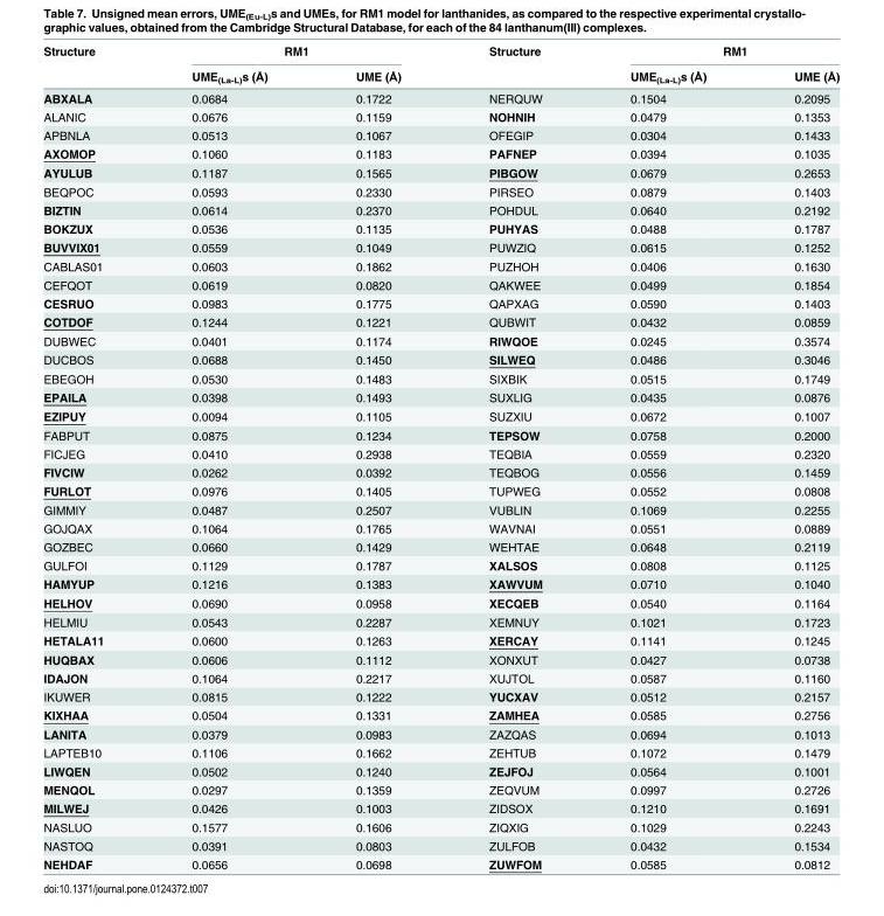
<table><thead><tr><td rowspan="2">Structure</td><td colspan="2">RM1</td><td rowspan="2">Structure</td><td colspan="2">RM1</td></tr><tr><td>UME<sub>(La-L)</sub>s (Å)</td><td>UME (Å)</td><td>UME<sub>(La-L)</sub>s (Å)</td><td>UME (Å)</td></tr></thead><tbody><tr><td>ABXALA</td><td>0.0684</td><td>0.1722</td><td>NERQUW</td><td>0.1504</td><td>0.2095</td></tr><tr><td>ALANIC</td><td>0.0676</td><td>0.1159</td><td>NOHNIH</td><td>0.0479</td><td>0.1353</td></tr><tr><td>APBNLA</td><td>0.0513</td><td>0.1067</td><td>OFEGIP</td><td>0.0304</td><td>0.1433</td></tr><tr><td>AXOMOP</td><td>0.1060</td><td>0.1183</td><td>PAFNEP</td><td>0.0394</td><td>0.1035</td></tr><tr><td>AYULUB</td><td>0.1187</td><td>0.1565</td><td>PIBGOW</td><td>0.0679</td><td>0.2653</td></tr><tr><td>BEQPOC</td><td>0.0593</td><td>0.2330</td><td>PIRSEO</td><td>0.0879</td><td>0.1403</td></tr><tr><td>BIZTIN</td><td>0.0614</td><td>0.2370</td><td>POHDUL</td><td>0.0640</td><td>0.2192</td></tr><tr><td>BOKZUX</td><td>0.0536</td><td>0.1135</td><td>PUHYAS</td><td>0.0488</td><td>0.1787</td></tr><tr><td>BUVVIX01</td><td>0.0559</td><td>0.1049</td><td>PUWZIQ</td><td>0.0615</td><td>0.1252</td></tr><tr><td>CABLAS01</td><td>0.0603</td><td>0.1862</td><td>PUZHOH</td><td>0.0406</td><td>0.1630</td></tr><tr><td>CEFQOT</td><td>0.0619</td><td>0.0820</td><td>QAKWEE</td><td>0.0499</td><td>0.1854</td></tr><tr><td>CESRUO</td><td>0.0983</td><td>0.1775</td><td>QAPXAG</td><td>0.0590</td><td>0.1403</td></tr><tr><td>COTDOF</td><td>0.1244</td><td>0.1221</td><td>QUBWIT</td><td>0.0432</td><td>0.0859</td></tr><tr><td>DUBWEC</td><td>0.0401</td><td>0.1174</td><td>RIWQOE</td><td>0.0245</td><td>0.3574</td></tr><tr><td>DUCBOS</td><td>0.0688</td><td>0.1450</td><td>SILWEQ</td><td>0.0486</td><td>0.3046</td></tr><tr><td>EBEGOH</td><td>0.0530</td><td>0.1483</td><td>SIXBIK</td><td>0.0515</td><td>0.1749</td></tr><tr><td>EPAILA</td><td>0.0398</td><td>0.1493</td><td>SUXLIG</td><td>0.0435</td><td>0.0876</td></tr><tr><td>EZIPUY</td><td>0.0094</td><td>0.1105</td><td>SUZXIU</td><td>0.0672</td><td>0.1007</td></tr><tr><td>FABPUT</td><td>0.0875</td><td>0.1234</td><td>TEPSOW</td><td>0.0758</td><td>0.2000</td></tr><tr><td>FICJEG</td><td>0.0410</td><td>0.2938</td><td>TEQBIA</td><td>0.0559</td><td>0.2320</td></tr><tr><td>FIVCIW</td><td>0.0262</td><td>0.0392</td><td>TEQBOG</td><td>0.0556</td><td>0.1459</td></tr><tr><td>FURLOT</td><td>0.0976</td><td>0.1405</td><td>TUPWEG</td><td>0.0552</td><td>0.0808</td></tr><tr><td>GIMMIY</td><td>0.0487</td><td>0.2507</td><td>VUBLIN</td><td>0.1069</td><td>0.2255</td></tr><tr><td>GOJQAX</td><td>0.1064</td><td>0.1765</td><td>WAVNAI</td><td>0.0551</td><td>0.0889</td></tr><tr><td>GOZBEC</td><td>0.0660</td><td>0.1429</td><td>WEHTAE</td><td>0.0648</td><td>0.2119</td></tr><tr><td>GULFOI</td><td>0.1129</td><td>0.1787</td><td>XALSOS</td><td>0.0808</td><td>0.1125</td></tr><tr><td>HAMYUP</td><td>0.1216</td><td>0.1383</td><td>XAWVUM</td><td>0.0710</td><td>0.1040</td></tr><tr><td>HELHOV</td><td>0.0690</td><td>0.0958</td><td>XECQEB</td><td>0.0540</td><td>0.1164</td></tr><tr><td>HELMIU</td><td>0.0543</td><td>0.2287</td><td>XEMNUY</td><td>0.1021</td><td>0.1723</td></tr><tr><td>HETALA11</td><td>0.0600</td><td>0.1263</td><td>XERCAY</td><td>0.1141</td><td>0.1245</td></tr><tr><td>HUQBAX</td><td>0.0606</td><td>0.1112</td><td>XONXUT</td><td>0.0427</td><td>0.0738</td></tr><tr><td>IDAJON</td><td>0.1064</td><td>0.2217</td><td>XUJTOL</td><td>0.0587</td><td>0.1160</td></tr><tr><td>IKUWER</td><td>0.0815</td><td>0.1222</td><td>YUCXAV</td><td>0.0512</td><td>0.2157</td></tr><tr><td>KIXHAA</td><td>0.0504</td><td>0.1331</td><td>ZAMHEA</td><td>0.0585</td><td>0.2756</td></tr><tr><td>LANITA</td><td>0.0379</td><td>0.0983</td><td>ZAZQAS</td><td>0.0694</td><td>0.1013</td></tr><tr><td>LAPTEB10</td><td>0.1106</td><td>0.1662</td><td>ZEHTUB</td><td>0.1072</td><td>0.1479</td></tr><tr><td>LIWQEN</td><td>0.0502</td><td>0.1240</td><td>ZEJFOJ</td><td>0.0564</td><td>0.1001</td></tr><tr><td>MENQOL</td><td>0.0297</td><td>0.1359</td><td>ZEQVUM</td><td>0.0997</td><td>0.2726</td></tr><tr><td>MILWEJ</td><td>0.0426</td><td>0.1003</td><td>ZIDSOX</td><td>0.1210</td><td>0.1691</td></tr><tr><td>NASLUO</td><td>0.1577</td><td>0.1606</td><td>ZIQXIG</td><td>0.1029</td><td>0.2243</td></tr><tr><td>NASTOQ</td><td>0.0391</td><td>0.0803</td><td>ZULFOB</td><td>0.0432</td><td>0.1534</td></tr><tr><td>NEHDAF</td><td>0.0656</td><td>0.0698</td><td>ZUWFOM</td><td>0.0585</td><td>0.0812</td></tr></tbody></table>